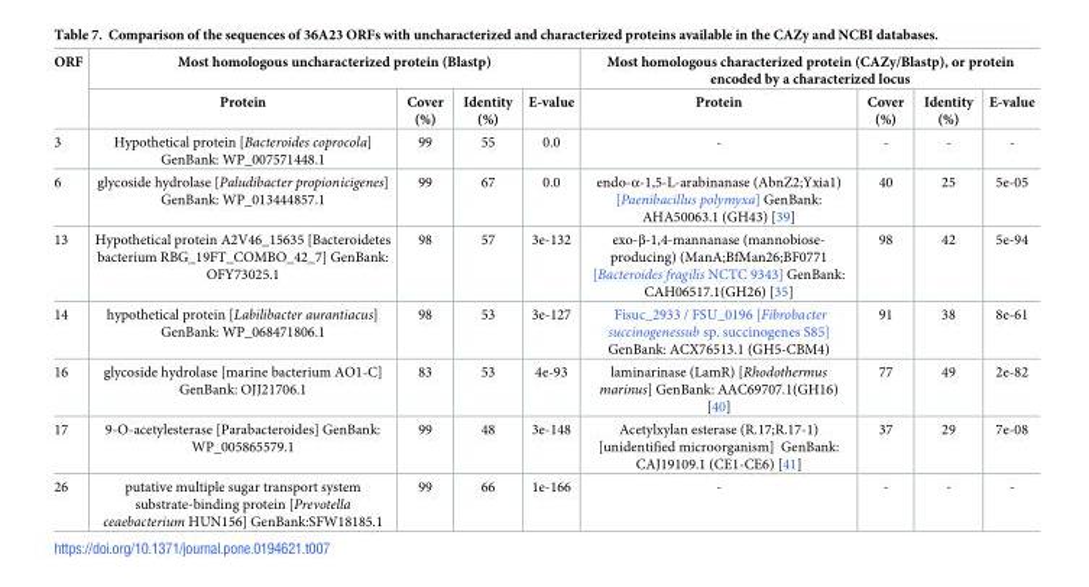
<table><thead><tr><td rowspan="2">ORF</td><td colspan="4">Most homologous uncharacterized protein (Blastp)</td><td colspan="4">Most homologous characterized protein (CAZy/Blastp), or protein encoded by a characterized locus</td></tr><tr><td>Protein</td><td>Cover (%)</td><td>Identity (%)</td><td>E-value</td><td>Protein</td><td>Cover (%)</td><td>Identity (%)</td><td>E-value</td></tr></thead><tbody><tr><td>3</td><td>Hypothetical protein [Bacteroides coprocola] GenBank: WP_007571448.1</td><td>99</td><td>55</td><td>0.0</td><td>-</td><td>-</td><td>-</td><td>-</td></tr><tr><td>6</td><td>glycoside hydrolase [Paludibacter propionicigenes] GenBank: WP_013444857.1</td><td>99</td><td>67</td><td>0.0</td><td>endo-α-1,5-L-arabinanase (AbnZ2;Yxia1) [Paenibacillus polymyxa] GenBank: AHA50063.1 (GH43) [39]</td><td>40</td><td>25</td><td>5e-05</td></tr><tr><td>13</td><td>Hypothetical protein A2V46_15635 [Bacteroidetes bacterium RBG_19FT_COMBO_42_7] GenBank: OFY73025.1</td><td>98</td><td>57</td><td>3e-132</td><td>exo-β-1,4-mannanase (mannobiose- producing) (ManA;BfMan26;BF0771 [Bacteroides fragilis NCTC 9343] GenBank: CAH06517.1(GH26) [35]</td><td>98</td><td>42</td><td>5e-94</td></tr><tr><td>14</td><td>hypothetical protein [Labilibacter aurantiacus] GenBank: WP_068471806.1</td><td>98</td><td>53</td><td>3e-127</td><td>Fisuc_2933 / FSU_0196 [Fibrobacter succinogenessub sp. succinogenes S85] GenBank: ACX76513.1 (GH5-CBM4)</td><td>91</td><td>38</td><td>8e-61</td></tr><tr><td>16</td><td>glycoside hydrolase [marine bacterium AO1-C] GenBank: OJJ21706.1</td><td>83</td><td>53</td><td>4e-93</td><td>laminarinase (LamR) [Rhodothermus marinus] GenBank: AAC69707.1(GH16) [40]</td><td>77</td><td>49</td><td>2e-82</td></tr><tr><td>17</td><td>9-O-acetylesterase [Parabacteroides] GenBank: WP_005865579.1</td><td>99</td><td>48</td><td>3e-148</td><td>Acetylxylan esterase (R.17;R.17-1) [unidentified microorganism] GenBank: CAJ19109.1 (CE1-CE6) [41]</td><td>37</td><td>29</td><td>7e-08</td></tr><tr><td>26</td><td>putative multiple sugar transport system substrate-binding protein [Prevotella ceaebacterium HUN156] GenBank:SFW18185.1</td><td>99</td><td>66</td><td>1e-166</td><td>-</td><td>-</td><td>-</td><td>-</td></tr></tbody></table>